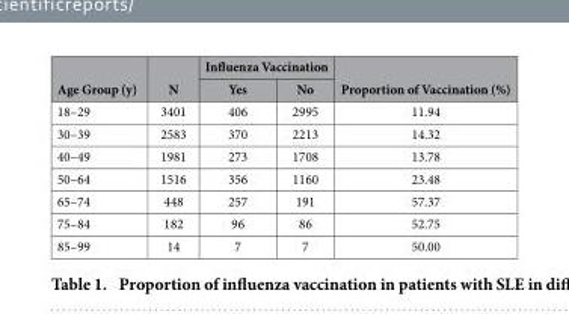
<table><thead><tr><td rowspan="2">Age Group (y)</td><td rowspan="2">N</td><td colspan="2">Influenza Vaccination</td><td rowspan="2">Proportion of Vaccination (%)</td></tr><tr><td>Yes</td><td>No</td></tr></thead><tbody><tr><td>18–29</td><td>3401</td><td>406</td><td>2995</td><td>11.94</td></tr><tr><td>30–39</td><td>2583</td><td>370</td><td>2213</td><td>14.32</td></tr><tr><td>40–49</td><td>1981</td><td>273</td><td>1708</td><td>13.78</td></tr><tr><td>50–64</td><td>1516</td><td>356</td><td>1160</td><td>23.48</td></tr><tr><td>65–74</td><td>448</td><td>257</td><td>191</td><td>57.37</td></tr><tr><td>75–84</td><td>182</td><td>96</td><td>86</td><td>52.75</td></tr><tr><td>85–99</td><td>14</td><td>7</td><td>7</td><td>50.00</td></tr></tbody></table>